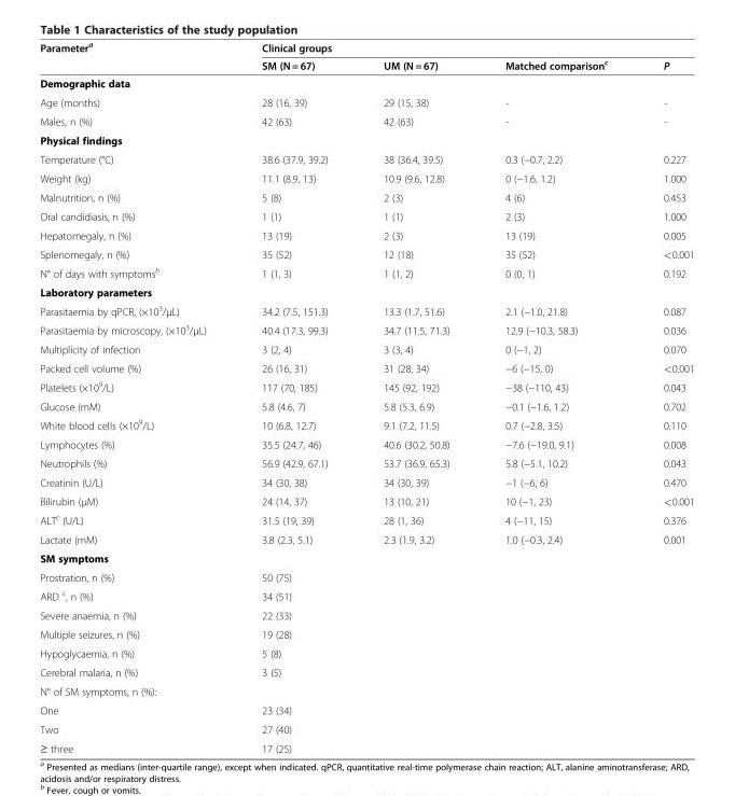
<table><thead><tr><td rowspan="2">Parameter<sup>a</sup></td><td colspan="4">Clinical groups</td></tr><tr><td>SM (N = 67)</td><td>UM (N = 67)</td><td>Matched comparison<sup>c</sup></td><td>P</td></tr></thead><tbody><tr><td colspan="5">Demographic data</td></tr><tr><td>Age (months)</td><td>28 (16, 39)</td><td>29 (15, 38)</td><td>-</td><td>-</td></tr><tr><td>Males, n (%)</td><td>42 (63)</td><td>42 (63)</td><td>-</td><td>-</td></tr><tr><td colspan="5">Physical findings</td></tr><tr><td>Temperature (°C)</td><td>38.6 (37.9, 39.2)</td><td>38 (36.4, 39.5)</td><td>0.3 (−0.7, 2.2)</td><td>0.227</td></tr><tr><td>Weight (kg)</td><td>11.1 (8.9, 13)</td><td>10.9 (9.6, 12.8)</td><td>0 (−1.6, 1.2)</td><td>1.000</td></tr><tr><td>Malnutrition, n (%)</td><td>5 (8)</td><td>2 (3)</td><td>4 (6)</td><td>0.453</td></tr><tr><td>Oral candidiasis, n (%)</td><td>1 (1)</td><td>1 (1)</td><td>2 (3)</td><td>1.000</td></tr><tr><td>Hepatomegaly, n (%)</td><td>13 (19)</td><td>2 (3)</td><td>13 (19)</td><td>0.005</td></tr><tr><td>Splenomegaly, n (%)</td><td>35 (52)</td><td>12 (18)</td><td>35 (52)</td><td>&lt;0.001</td></tr><tr><td>N° of days with symptoms<sup>b</sup></td><td>1 (1, 3)</td><td>1 (1, 2)</td><td>0 (0, 1)</td><td>0.192</td></tr><tr><td colspan="5">Laboratory parameters</td></tr><tr><td>Parasitaemia by qPCR, (×10<sup>3</sup>/μL)</td><td>34.2 (7.5, 151.3)</td><td>13.3 (1.7, 51.6)</td><td>2.1 (−1.0, 21.8)</td><td>0.087</td></tr><tr><td>Parasitaemia by microscopy, (×10<sup>3</sup>/μL)</td><td>40.4 (17.3, 99.3)</td><td>34.7 (11.5, 71.3)</td><td>12.9 (−10.3, 58.3)</td><td>0.036</td></tr><tr><td>Multiplicity of infection</td><td>3 (2, 4)</td><td>3 (3, 4)</td><td>0 (−1, 2)</td><td>0.070</td></tr><tr><td>Packed cell volume (%)</td><td>26 (16, 31)</td><td>31 (28, 34)</td><td>−6 (−15, 0)</td><td>&lt;0.001</td></tr><tr><td>Platelets (×10<sup>9</sup>/L)</td><td>117 (70, 185)</td><td>145 (92, 192)</td><td>−38 (−110, 43)</td><td>0.043</td></tr><tr><td>Glucose (mM)</td><td>5.8 (4.6, 7)</td><td>5.8 (5.3, 6.9)</td><td>−0.1 (−1.6, 1.2)</td><td>0.702</td></tr><tr><td>White blood cells (×10<sup>9</sup>/L)</td><td>10 (6.8, 12.7)</td><td>9.1 (7.2, 11.5)</td><td>0.7 (−2.8, 3.5)</td><td>0.110</td></tr><tr><td>Lymphocytes (%)</td><td>35.5 (24.7, 46)</td><td>40.6 (30.2, 50.8)</td><td>−7.6 (−19.0, 9.1)</td><td>0.008</td></tr><tr><td>Neutrophils (%)</td><td>56.9 (42.9, 67.1)</td><td>53.7 (36.9, 65.3)</td><td>5.8 (−5.1, 10.2)</td><td>0.043</td></tr><tr><td>Creatinin (U/L)</td><td>34 (30, 38)</td><td>34 (30, 39)</td><td>−1 (−6, 6)</td><td>0.470</td></tr><tr><td>Bilirubin (μM)</td><td>24 (14, 37)</td><td>13 (10, 21)</td><td>10 (−1, 23)</td><td>&lt;0.001</td></tr><tr><td>ALT<sup>c</sup> (U/L)</td><td>31.5 (19, 39)</td><td>28 (1, 36)</td><td>4 (−11, 15)</td><td>0.376</td></tr><tr><td>Lactate (mM)</td><td>3.8 (2.3, 5.1)</td><td>2.3 (1.9, 3.2)</td><td>1.0 (−0.3, 2.4)</td><td>0.001</td></tr><tr><td colspan="5">SM symptoms</td></tr><tr><td>Prostration, n (%)</td><td>50 (75)</td><td></td><td></td><td></td></tr><tr><td>ARD <sup>c</sup>, n (%)</td><td>34 (51)</td><td></td><td></td><td></td></tr><tr><td>Severe anaemia, n (%)</td><td>22 (33)</td><td></td><td></td><td></td></tr><tr><td>Multiple seizures, n (%)</td><td>19 (28)</td><td></td><td></td><td></td></tr><tr><td>Hypoglycaemia, n (%)</td><td>5 (8)</td><td></td><td></td><td></td></tr><tr><td>Cerebral malaria, n (%)</td><td>3 (5)</td><td></td><td></td><td></td></tr><tr><td colspan="5">N° of SM symptoms, n (%):</td></tr><tr><td>One</td><td>23 (34)</td><td></td><td></td><td></td></tr><tr><td>Two</td><td>27 (40)</td><td></td><td></td><td></td></tr><tr><td>≥ three</td><td>17 (25)</td><td></td><td></td><td></td></tr></tbody></table>